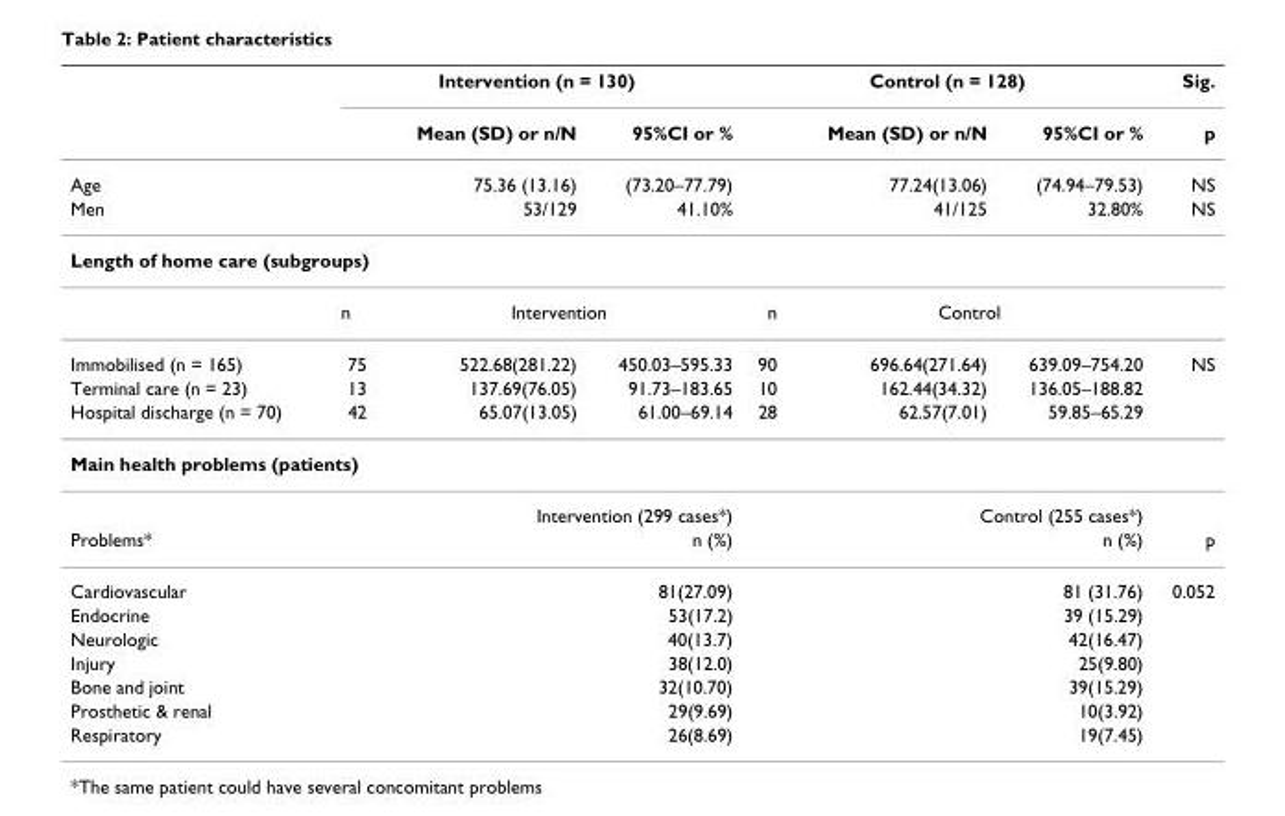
<table><thead><tr><td rowspan="2"></td><td colspan="3">Intervention (n = 130)</td><td colspan="3">Control (n = 128)</td><td rowspan="2">Sig. p</td></tr><tr><td></td><td>Mean (SD) or n/N</td><td>95%CI or %</td><td></td><td>Mean (SD) or n/N</td><td>95%CI or %</td></tr></thead><tbody><tr><td>Age</td><td></td><td>75.36 (13.16)</td><td>(73.20–77.79)</td><td></td><td>77.24(13.06)</td><td>(74.94–79.53)</td><td>NS</td></tr><tr><td>Men</td><td></td><td>53/129</td><td>41.10%</td><td></td><td>41/125</td><td>32.80%</td><td>NS</td></tr><tr><td colspan="8">Length of home care (subgroups)</td></tr><tr><td></td><td>n</td><td colspan="2">Intervention</td><td>n</td><td colspan="2">Control</td><td></td></tr><tr><td>Immobilised (n = 165)</td><td>75</td><td>522.68(281.22)</td><td>450.03–595.33</td><td>90</td><td>696.64(271.64)</td><td>639.09–754.20</td><td>NS</td></tr><tr><td>Terminal care (n = 23)</td><td>13</td><td>137.69(76.05)</td><td>91.73–183.65</td><td>10</td><td>162.44(34.32)</td><td>136.05–188.82</td><td></td></tr><tr><td>Hospital discharge (n = 70)</td><td>42</td><td>65.07(13.05)</td><td>61.00–69.14</td><td>28</td><td>62.57(7.01)</td><td>59.85–65.29</td><td></td></tr><tr><td colspan="8">Main health problems (patients)</td></tr><tr><td></td><td colspan="3">Intervention (299 cases*)</td><td colspan="3">Control (255 cases*)</td><td></td></tr><tr><td>Problems*</td><td colspan="3">n (%)</td><td colspan="3">n (%)</td><td>p</td></tr><tr><td>Cardiovascular</td><td colspan="3">81(27.09)</td><td colspan="3">81 (31.76)</td><td>0.052</td></tr><tr><td>Endocrine</td><td colspan="3">53(17.2)</td><td colspan="3">39 (15.29)</td><td></td></tr><tr><td>Neurologic</td><td colspan="3">40(13.7)</td><td colspan="3">42(16.47)</td><td></td></tr><tr><td>Injury</td><td colspan="3">38(12.0)</td><td colspan="3">25(9.80)</td><td></td></tr><tr><td>Bone and joint</td><td colspan="3">32(10.70)</td><td colspan="3">39(15.29)</td><td></td></tr><tr><td>Prosthetic &amp; renal</td><td colspan="3">29(9.69)</td><td colspan="3">10(3.92)</td><td></td></tr><tr><td>Respiratory</td><td colspan="3">26(8.69)</td><td colspan="3">19(7.45)</td><td></td></tr></tbody></table>